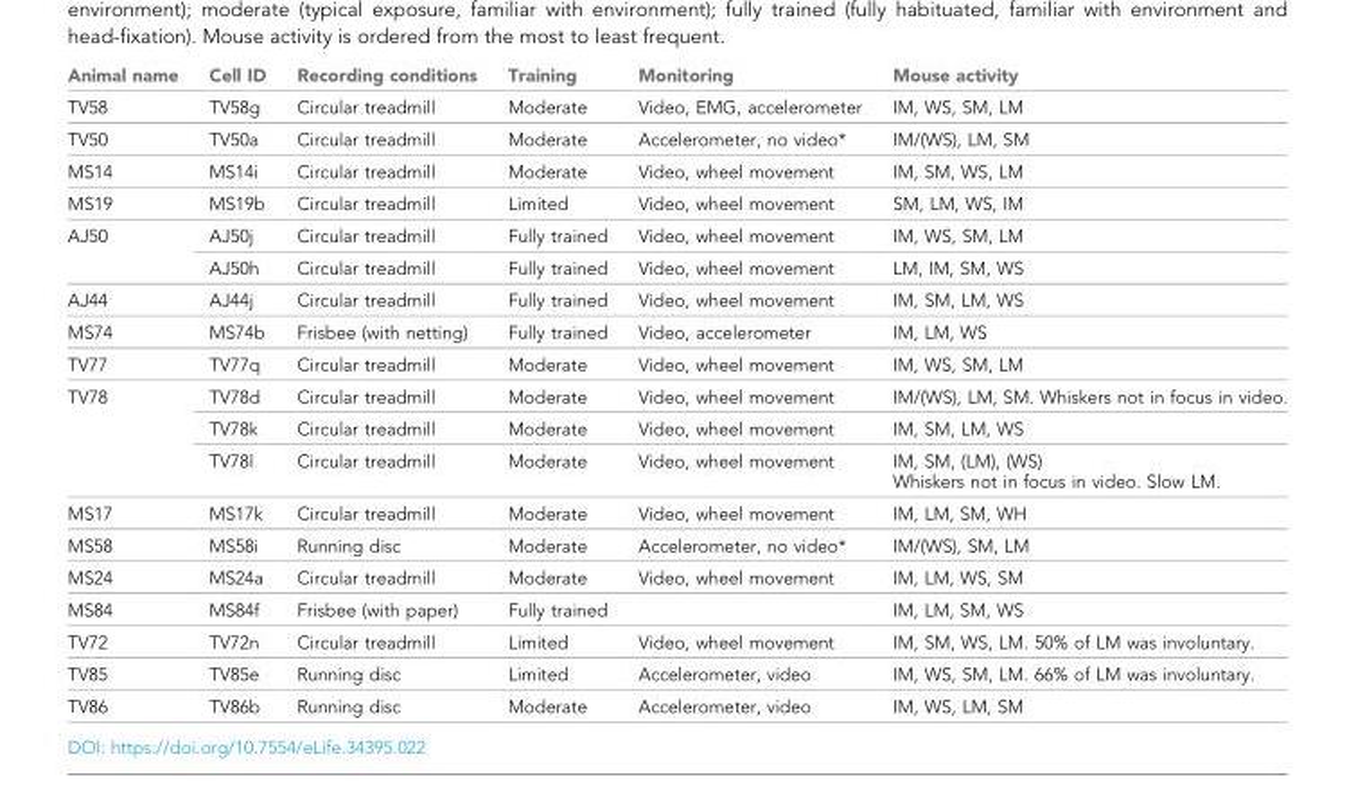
<table><thead><tr><td>Animal name</td><td>Cell ID</td><td>Recording conditions</td><td>Training</td><td>Monitoring</td><td>Mouse activity</td></tr></thead><tbody><tr><td>TV58</td><td>TV58g</td><td>Circular treadmill</td><td>Moderate</td><td>Video, EMG, accelerometer</td><td>IM, WS, SM, LM</td></tr><tr><td>TV50</td><td>TV50a</td><td>Circular treadmill</td><td>Moderate</td><td>Accelerometer, no video*</td><td>IM/(WS), LM, SM</td></tr><tr><td>MS14</td><td>MS14i</td><td>Circular treadmill</td><td>Moderate</td><td>Video, wheel movement</td><td>IM, SM, WS, LM</td></tr><tr><td>MS19</td><td>MS19b</td><td>Circular treadmill</td><td>Limited</td><td>Video, wheel movement</td><td>SM, LM, WS, IM</td></tr><tr><td rowspan="2">AJ50</td><td>AJ50j</td><td>Circular treadmill</td><td>Fully trained</td><td>Video, wheel movement</td><td>IM, WS, SM, LM</td></tr><tr><td>AJ50h</td><td>Circular treadmill</td><td>Fully trained</td><td>Video, wheel movement</td><td>LM, IM, SM, WS</td></tr><tr><td>AJ44</td><td>AJ44j</td><td>Circular treadmill</td><td>Fully trained</td><td>Video, wheel movement</td><td>IM, SM, LM, WS</td></tr><tr><td>MS74</td><td>MS74b</td><td>Frisbee (with netting)</td><td>Fully trained</td><td>Video, accelerometer</td><td>IM, LM, WS</td></tr><tr><td>TV77</td><td>TV77q</td><td>Circular treadmill</td><td>Moderate</td><td>Video, wheel movement</td><td>IM, WS, SM, LM</td></tr><tr><td rowspan="3">TV78</td><td>TV78d</td><td>Circular treadmill</td><td>Moderate</td><td>Video, wheel movement</td><td>IM/(WS), LM, SM. Whiskers not in focus in video.</td></tr><tr><td>TV78k</td><td>Circular treadmill</td><td>Moderate</td><td>Video, wheel movement</td><td>IM, SM, LM, WS</td></tr><tr><td>TV78l</td><td>Circular treadmill</td><td>Moderate</td><td>Video, wheel movement</td><td>IM, SM, (LM), (WS) Whiskers not in focus in video. Slow LM.</td></tr><tr><td>MS17</td><td>MS17k</td><td>Circular treadmill</td><td>Moderate</td><td>Video, wheel movement</td><td>IM, LM, SM, WH</td></tr><tr><td>MS58</td><td>MS58i</td><td>Running disc</td><td>Moderate</td><td>Accelerometer, no video*</td><td>IM/(WS), SM, LM</td></tr><tr><td>MS24</td><td>MS24a</td><td>Circular treadmill</td><td>Moderate</td><td>Video, wheel movement</td><td>IM, LM, WS, SM</td></tr><tr><td>MS84</td><td>MS84f</td><td>Frisbee (with paper)</td><td>Fully trained</td><td></td><td>IM, LM, SM, WS</td></tr><tr><td>TV72</td><td>TV72n</td><td>Circular treadmill</td><td>Limited</td><td>Video, wheel movement</td><td>IM, SM, WS, LM. 50% of LM was involuntary.</td></tr><tr><td>TV85</td><td>TV85e</td><td>Running disc</td><td>Limited</td><td>Accelerometer, video</td><td>IM, WS, SM, LM. 66% of LM was involuntary.</td></tr><tr><td>TV86</td><td>TV86b</td><td>Running disc</td><td>Moderate</td><td>Accelerometer, video</td><td>IM, WS, LM, SM</td></tr></tbody></table>